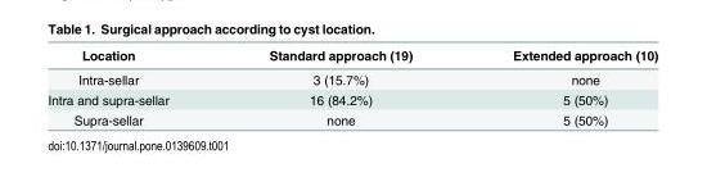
<table><thead><tr><td>Location</td><td>Standard approach (19)</td><td>Extended approach (10)</td></tr></thead><tbody><tr><td>Intra-sellar</td><td>3 (15.7%)</td><td>none</td></tr><tr><td>Intra and supra-sellar</td><td>16 (84.2%)</td><td>5 (50%)</td></tr><tr><td>Supra-sellar</td><td>none</td><td>5 (50%)</td></tr></tbody></table>